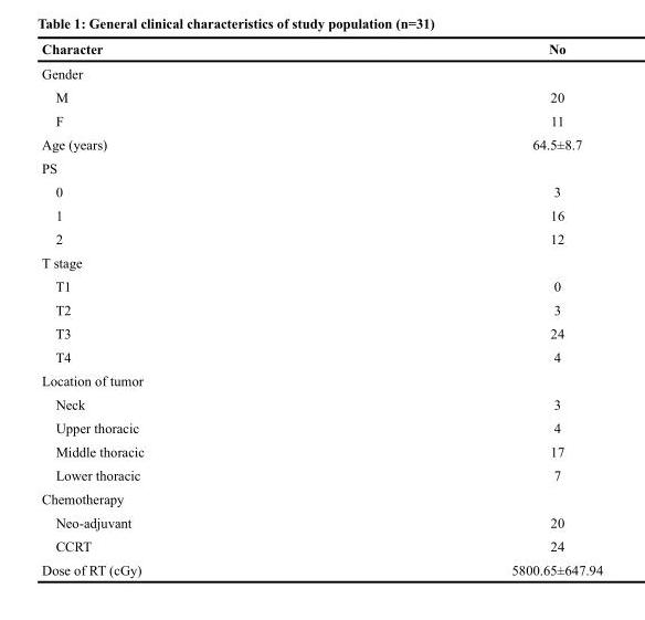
<table><thead><tr><td>Character</td><td>No</td></tr></thead><tbody><tr><td colspan="2">Gender</td></tr><tr><td>M</td><td>20</td></tr><tr><td>F</td><td>11</td></tr><tr><td>Age (years)</td><td>64.5±8.7</td></tr><tr><td colspan="2">PS</td></tr><tr><td>0</td><td>3</td></tr><tr><td>1</td><td>16</td></tr><tr><td>2</td><td>12</td></tr><tr><td colspan="2">T stage</td></tr><tr><td>T1</td><td>0</td></tr><tr><td>T2</td><td>3</td></tr><tr><td>T3</td><td>24</td></tr><tr><td>T4</td><td>4</td></tr><tr><td colspan="2">Location of tumor</td></tr><tr><td>Neck</td><td>3</td></tr><tr><td>Upper thoracic</td><td>4</td></tr><tr><td>Middle thoracic</td><td>17</td></tr><tr><td>Lower thoracic</td><td>7</td></tr><tr><td colspan="2">Chemotherapy</td></tr><tr><td>Neo-adjuvant</td><td>20</td></tr><tr><td>CCRT</td><td>24</td></tr><tr><td>Dose of RT (cGy)</td><td>5800.65±647.94</td></tr></tbody></table>